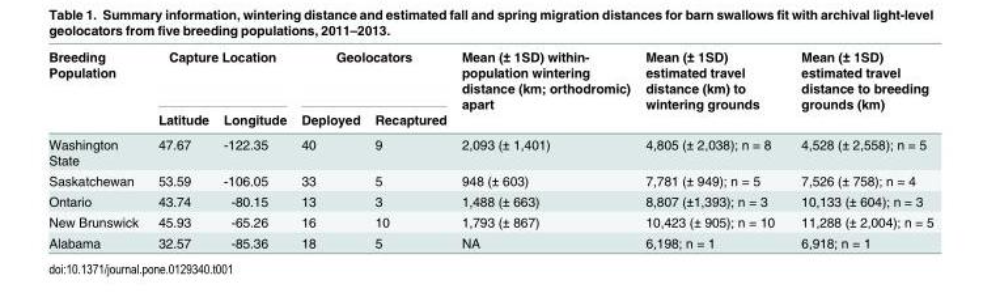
<table><thead><tr><td rowspan="2">Breeding Population</td><td colspan="2">Capture Location</td><td colspan="2">Geolocators</td><td rowspan="2">Mean (± 1SD) within- population wintering distance (km; orthodromic) apart</td><td rowspan="2">Mean (± 1SD) estimated travel distance (km) to wintering grounds</td><td rowspan="2">Mean (± 1SD) estimated travel distance to breeding grounds (km)</td></tr><tr><td>Latitude</td><td>Longitude</td><td>Deployed</td><td>Recaptured</td></tr></thead><tbody><tr><td>Washington State</td><td>47.67</td><td>-122.35</td><td>40</td><td>9</td><td>2,093 (± 1,401)</td><td>4,805 (± 2,038); n = 8</td><td>4,528 (± 2,558); n = 5</td></tr><tr><td>Saskatchewan</td><td>53.59</td><td>-106.05</td><td>33</td><td>5</td><td>948 (± 603)</td><td>7,781 (± 949); n = 5</td><td>7,526 (± 758); n = 4</td></tr><tr><td>Ontario</td><td>43.74</td><td>-80.15</td><td>13</td><td>3</td><td>1,488 (± 663)</td><td>8,807 (±1,393); n = 3</td><td>10,133 (± 604); n = 3</td></tr><tr><td>New Brunswick</td><td>45.93</td><td>-65.26</td><td>16</td><td>10</td><td>1,793 (± 867)</td><td>10,423 (± 905); n = 10</td><td>11,288 (± 2,004); n = 5</td></tr><tr><td>Alabama</td><td>32.57</td><td>-85.36</td><td>18</td><td>5</td><td>NA</td><td>6,198; n = 1</td><td>6,918; n = 1</td></tr></tbody></table>